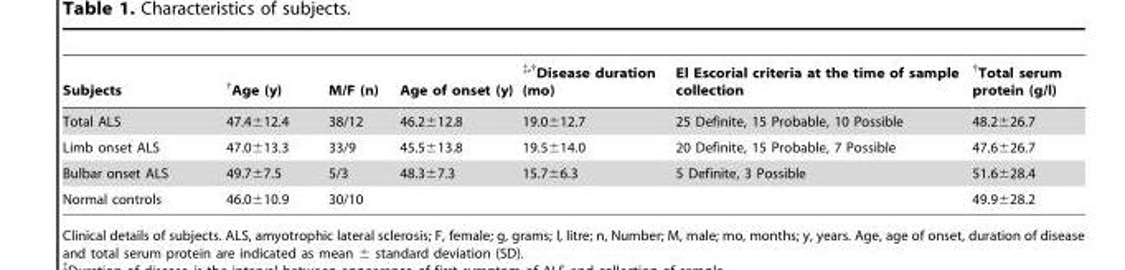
<table><thead><tr><td>Subjects</td><td>†Age (y)</td><td>M/F (n)</td><td>Age of onset (y)</td><td>‡,†Disease duration (mo)</td><td>El Escorial criteria at the time of sample collection</td><td>†Total serum protein (g/l)</td></tr></thead><tbody><tr><td>Total ALS</td><td>47.4±12.4</td><td>38/12</td><td>46.2±12.8</td><td>19.0±12.7</td><td>25 Definite, 15 Probable, 10 Possible</td><td>48.2±26.7</td></tr><tr><td>Limb onset ALS</td><td>47.0±13.3</td><td>33/9</td><td>45.5±13.8</td><td>19.5±14.0</td><td>20 Definite, 15 Probable, 7 Possible</td><td>47.6±26.7</td></tr><tr><td>Bulbar onset ALS</td><td>49.7±7.5</td><td>5/3</td><td>48.3±7.3</td><td>15.7±6.3</td><td>5 Definite, 3 Possible</td><td>51.6±28.4</td></tr><tr><td>Normal controls</td><td>46.0±10.9</td><td>30/10</td><td></td><td></td><td></td><td>49.9±28.2</td></tr></tbody></table>